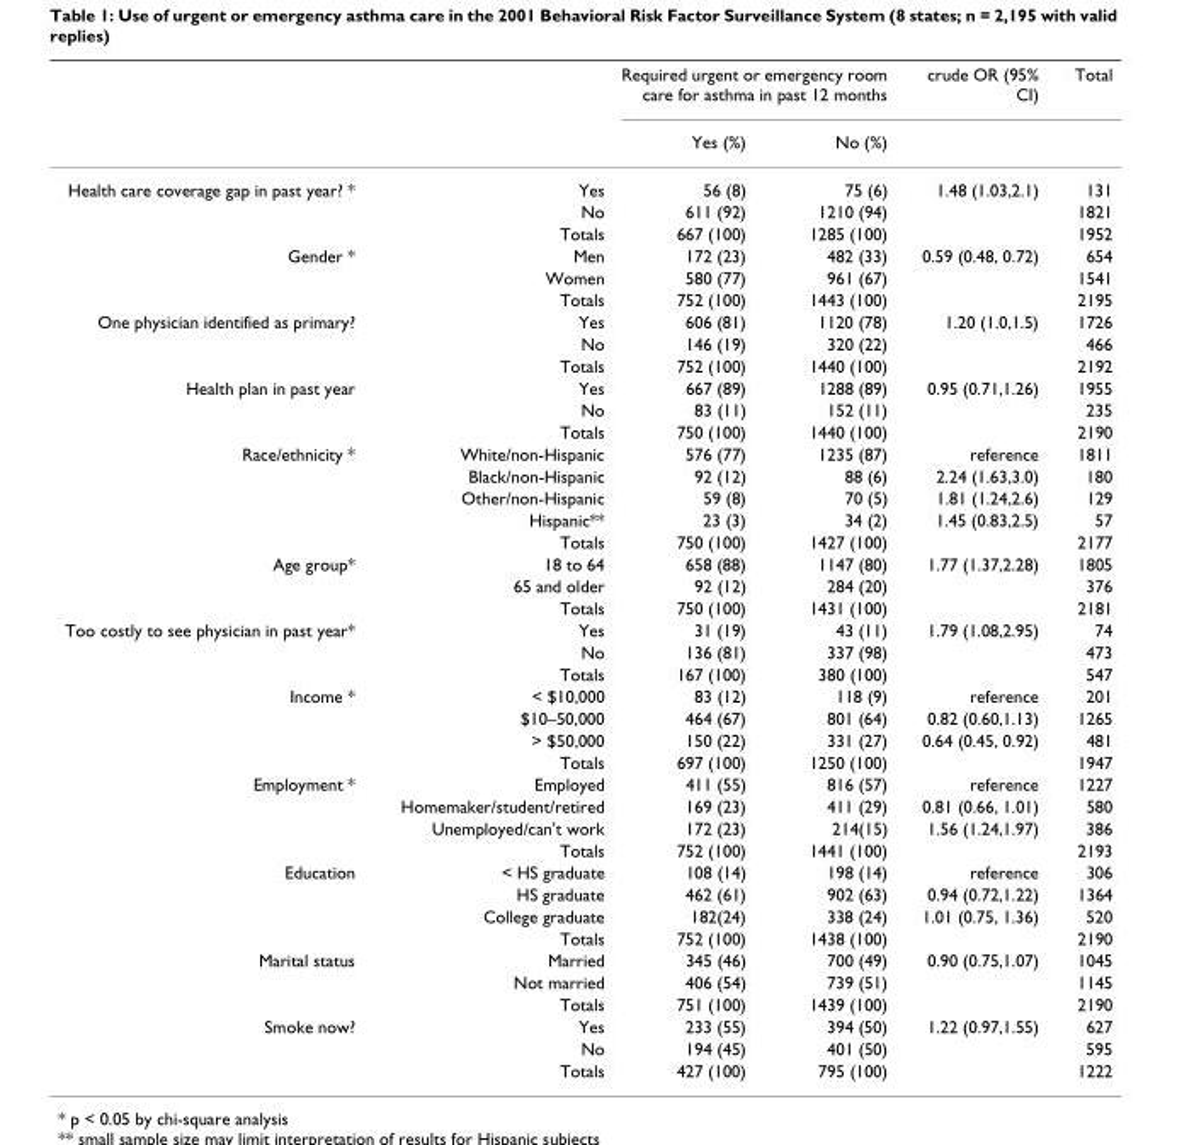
<table><thead><tr><td rowspan="2"></td><td rowspan="2"></td><td colspan="2">Required urgent or emergency room care for asthma in past 12 months</td><td rowspan="2">crude OR (95% CI)</td><td rowspan="2">Total</td></tr><tr><td>Yes (%)</td><td>No (%)</td></tr></thead><tbody><tr><td rowspan="3">Health care coverage gap in past year? *</td><td>Yes</td><td>56 (8)</td><td>75 (6)</td><td>1.48 (1.03,2.1)</td><td>131</td></tr><tr><td>No</td><td>611 (92)</td><td>1210 (94)</td><td></td><td>1821</td></tr><tr><td>Totals</td><td>667 (100)</td><td>1285 (100)</td><td></td><td>1952</td></tr><tr><td rowspan="3">Gender *</td><td>Men</td><td>172 (23)</td><td>482 (33)</td><td>0.59 (0.48, 0.72)</td><td>654</td></tr><tr><td>Women</td><td>580 (77)</td><td>961 (67)</td><td></td><td>1541</td></tr><tr><td>Totals</td><td>752 (100)</td><td>1443 (100)</td><td></td><td>2195</td></tr><tr><td rowspan="3">One physician identified as primary?</td><td>Yes</td><td>606 (81)</td><td>1120 (78)</td><td>1.20 (1.0,1.5)</td><td>1726</td></tr><tr><td>No</td><td>146 (19)</td><td>320 (22)</td><td></td><td>466</td></tr><tr><td>Totals</td><td>752 (100)</td><td>1440 (100)</td><td></td><td>2192</td></tr><tr><td rowspan="3">Health plan in past year</td><td>Yes</td><td>667 (89)</td><td>1288 (89)</td><td>0.95 (0.71,1.26)</td><td>1955</td></tr><tr><td>No</td><td>83 (11)</td><td>152 (11)</td><td></td><td>235</td></tr><tr><td>Totals</td><td>750 (100)</td><td>1440 (100)</td><td></td><td>2190</td></tr><tr><td rowspan="5">Race/ethnicity *</td><td>White/non-Hispanic</td><td>576 (77)</td><td>1235 (87)</td><td>reference</td><td>1811</td></tr><tr><td>Black/non-Hispanic</td><td>92 (12)</td><td>88 (6)</td><td>2.24 (1.63,3.0)</td><td>180</td></tr><tr><td>Other/non-Hispanic</td><td>59 (8)</td><td>70 (5)</td><td>1.81 (1.24,2.6)</td><td>129</td></tr><tr><td>Hispanic**</td><td>23 (3)</td><td>34 (2)</td><td>1.45 (0.83,2.5)</td><td>57</td></tr><tr><td>Totals</td><td>750 (100)</td><td>1427 (100)</td><td></td><td>2177</td></tr><tr><td rowspan="3">Age group*</td><td>18 to 64</td><td>658 (88)</td><td>1147 (80)</td><td>1.77 (1.37,2.28)</td><td>1805</td></tr><tr><td>65 and older</td><td>92 (12)</td><td>284 (20)</td><td></td><td>376</td></tr><tr><td>Totals</td><td>750 (100)</td><td>1431 (100)</td><td></td><td>2181</td></tr><tr><td rowspan="3">Too costly to see physician in past year*</td><td>Yes</td><td>31 (19)</td><td>43 (11)</td><td>1.79 (1.08,2.95)</td><td>74</td></tr><tr><td>No</td><td>136 (81)</td><td>337 (98)</td><td></td><td>473</td></tr><tr><td>Totals</td><td>167 (100)</td><td>380 (100)</td><td></td><td>547</td></tr><tr><td rowspan="4">Income *</td><td>&lt; $10,000</td><td>83 (12)</td><td>118 (9)</td><td>reference</td><td>201</td></tr><tr><td>$10–50,000</td><td>464 (67)</td><td>801 (64)</td><td>0.82 (0.60,1.13)</td><td>1265</td></tr><tr><td>&gt; $50,000</td><td>150 (22)</td><td>331 (27)</td><td>0.64 (0.45, 0.92)</td><td>481</td></tr><tr><td>Totals</td><td>697 (100)</td><td>1250 (100)</td><td></td><td>1947</td></tr><tr><td rowspan="4">Employment *</td><td>Employed</td><td>411 (55)</td><td>816 (57)</td><td>reference</td><td>1227</td></tr><tr><td>Homemaker/student/retired</td><td>169 (23)</td><td>411 (29)</td><td>0.81 (0.66, 1.01)</td><td>580</td></tr><tr><td>Unemployed/can&#x27;t work</td><td>172 (23)</td><td>214(15)</td><td>1.56 (1.24,1.97)</td><td>386</td></tr><tr><td>Totals</td><td>752 (100)</td><td>1441 (100)</td><td></td><td>2193</td></tr><tr><td rowspan="4">Education</td><td>&lt; HS graduate</td><td>108 (14)</td><td>198 (14)</td><td>reference</td><td>306</td></tr><tr><td>HS graduate</td><td>462 (61)</td><td>902 (63)</td><td>0.94 (0.72,1.22)</td><td>1364</td></tr><tr><td>College graduate</td><td>182(24)</td><td>338 (24)</td><td>1.01 (0.75, 1.36)</td><td>520</td></tr><tr><td>Totals</td><td>752 (100)</td><td>1438 (100)</td><td></td><td>2190</td></tr><tr><td rowspan="3">Marital status</td><td>Married</td><td>345 (46)</td><td>700 (49)</td><td>0.90 (0.75,1.07)</td><td>1045</td></tr><tr><td>Not married</td><td>406 (54)</td><td>739 (51)</td><td></td><td>1145</td></tr><tr><td>Totals</td><td>751 (100)</td><td>1439 (100)</td><td></td><td>2190</td></tr><tr><td rowspan="3">Smoke now?</td><td>Yes</td><td>233 (55)</td><td>394 (50)</td><td>1.22 (0.97,1.55)</td><td>627</td></tr><tr><td>No</td><td>194 (45)</td><td>401 (50)</td><td></td><td>595</td></tr><tr><td>Totals</td><td>427 (100)</td><td>795 (100)</td><td></td><td>1222</td></tr></tbody></table>